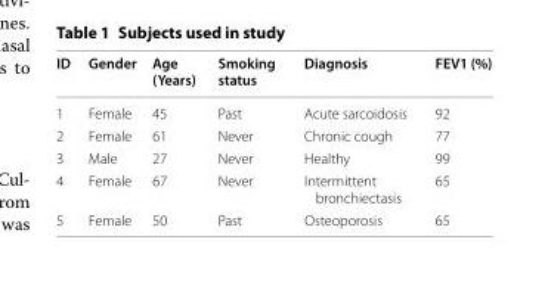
<table><thead><tr><td>ID</td><td>Gender</td><td>Age (Years)</td><td>Smoking status</td><td>Diagnosis</td><td>FEV1 (%)</td></tr></thead><tbody><tr><td>1</td><td>Female</td><td>45</td><td>Past</td><td>Acute sarcoidosis</td><td>92</td></tr><tr><td>2</td><td>Female</td><td>61</td><td>Never</td><td>Chronic cough</td><td>77</td></tr><tr><td>3</td><td>Male</td><td>27</td><td>Never</td><td>Healthy</td><td>99</td></tr><tr><td>4</td><td>Female</td><td>67</td><td>Never</td><td>Intermittent bronchiectasis</td><td>65</td></tr><tr><td>5</td><td>Female</td><td>50</td><td>Past</td><td>Osteoporosis</td><td>65</td></tr></tbody></table>